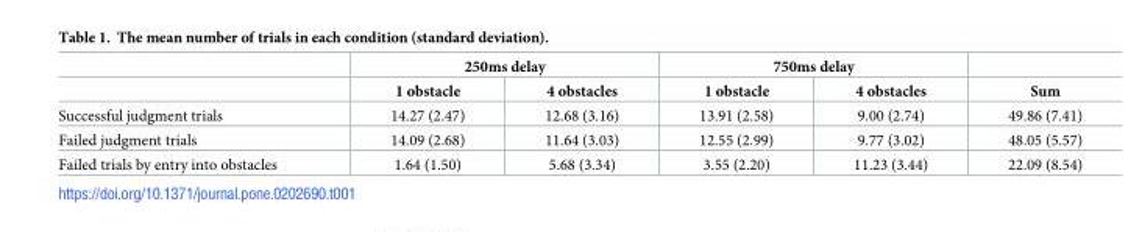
<table><thead><tr><td rowspan="2"></td><td colspan="2">250ms delay</td><td colspan="2">750ms delay</td><td rowspan="2">Sum</td></tr><tr><td>1 obstacle</td><td>4 obstacles</td><td>1 obstacle</td><td>4 obstacles</td></tr></thead><tbody><tr><td>Successful judgment trials</td><td>14.27 (2.47)</td><td>12.68 (3.16)</td><td>13.91 (2.58)</td><td>9.00 (2.74)</td><td>49.86 (7.41)</td></tr><tr><td>Failed judgment trials</td><td>14.09 (2.68)</td><td>11.64 (3.03)</td><td>12.55 (2.99)</td><td>9.77 (3.02)</td><td>48.05 (5.57)</td></tr><tr><td>Failed trials by entry into obstacles</td><td>1.64 (1.50)</td><td>5.68 (3.34)</td><td>3.55 (2.20)</td><td>11.23 (3.44)</td><td>22.09 (8.54)</td></tr></tbody></table>